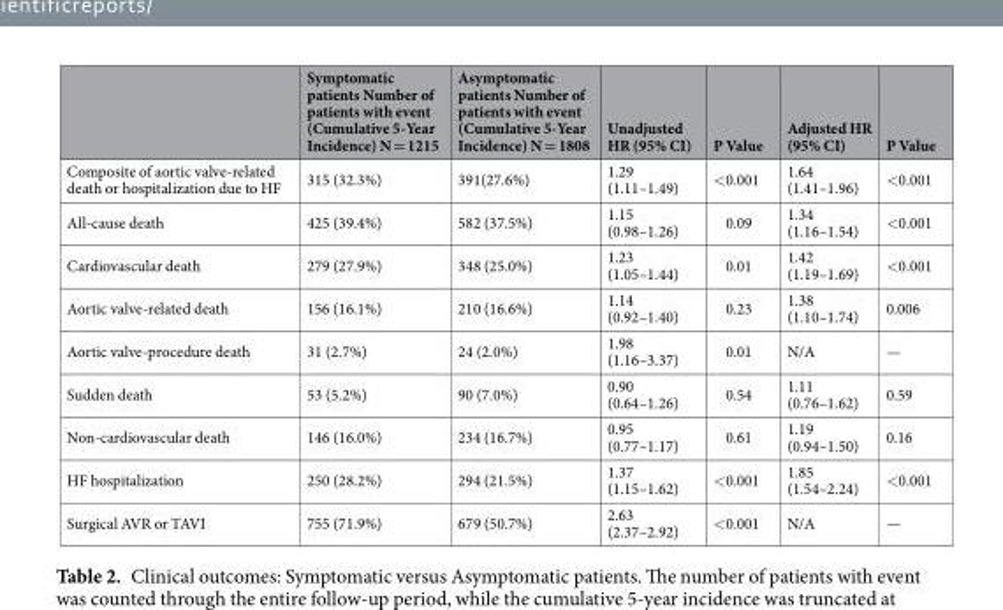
<table><thead><tr><td></td><td>Symptomatic patients Number of patients with event (Cumulative 5-Year Incidence) N = 1215</td><td>Asymptomatic patients Number of patients with event (Cumulative 5-Year Incidence) N = 1808</td><td>Unadjusted HR (95% CI)</td><td>P Value</td><td>Adjusted HR (95% CI)</td><td>P Value</td></tr></thead><tbody><tr><td>Composite of aortic valve-related death or hospitalization due to HF</td><td>315 (32.3%)</td><td>391(27.6%)</td><td>1.29 (1.11–1.49)</td><td>&lt;0.001</td><td>1.64 (1.41–1.96)</td><td>&lt;0.001</td></tr><tr><td>All-cause death</td><td>425 (39.4%)</td><td>582 (37.5%)</td><td>1.15 (0.98–1.26)</td><td>0.09</td><td>1.34 (1.16–1.54)</td><td>&lt;0.001</td></tr><tr><td>Cardiovascular death</td><td>279 (27.9%)</td><td>348 (25.0%)</td><td>1.23 (1.05–1.44)</td><td>0.01</td><td>1.42 (1.19–1.69)</td><td>&lt;0.001</td></tr><tr><td>Aortic valve-related death</td><td>156 (16.1%)</td><td>210 (16.6%)</td><td>1.14 (0.92–1.40)</td><td>0.23</td><td>1.38 (1.10–1.74)</td><td>0.006</td></tr><tr><td>Aortic valve-procedure death</td><td>31 (2.7%)</td><td>24 (2.0%)</td><td>1.98 (1.16–3.37)</td><td>0.01</td><td>N/A</td><td>—</td></tr><tr><td>Sudden death</td><td>53 (5.2%)</td><td>90 (7.0%)</td><td>0.90 (0.64–1.26)</td><td>0.54</td><td>1.11 (0.76–1.62)</td><td>0.59</td></tr><tr><td>Non-cardiovascular death</td><td>146 (16.0%)</td><td>234 (16.7%)</td><td>0.95 (0.77–1.17)</td><td>0.61</td><td>1.19 (0.94–1.50)</td><td>0.16</td></tr><tr><td>HF hospitalization</td><td>250 (28.2%)</td><td>294 (21.5%)</td><td>1.37 (1.15–1.62)</td><td>&lt;0.001</td><td>1.85 (1.54–2.24)</td><td>&lt;0.001</td></tr><tr><td>Surgical AVR or TAVI</td><td>755 (71.9%)</td><td>679 (50.7%)</td><td>2.63 (2.37–2.92)</td><td>&lt;0.001</td><td>N/A</td><td>—</td></tr></tbody></table>